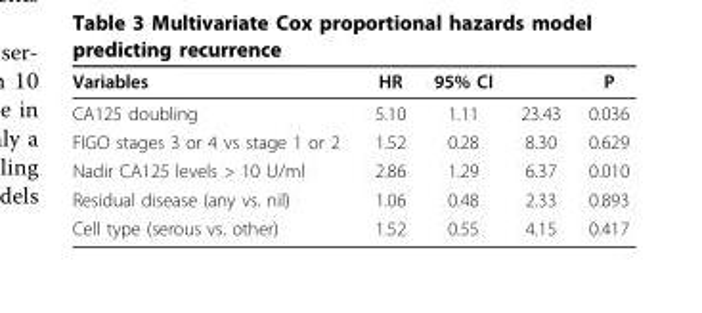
<table><thead><tr><td>Variables</td><td>HR</td><td>95% CI</td><td></td><td>P</td></tr></thead><tbody><tr><td>CA125 doubling</td><td>5.10</td><td>1.11</td><td>23.43</td><td>0.036</td></tr><tr><td>FIGO stages 3 or 4 vs stage 1 or 2</td><td>1.52</td><td>0.28</td><td>8.30</td><td>0.629</td></tr><tr><td>Nadir CA125 levels &gt; 10 U/ml</td><td>2.86</td><td>1.29</td><td>6.37</td><td>0.010</td></tr><tr><td>Residual disease (any vs. nil)</td><td>1.06</td><td>0.48</td><td>2.33</td><td>0.893</td></tr><tr><td>Cell type (serous vs. other)</td><td>1.52</td><td>0.55</td><td>4.15</td><td>0.417</td></tr></tbody></table>